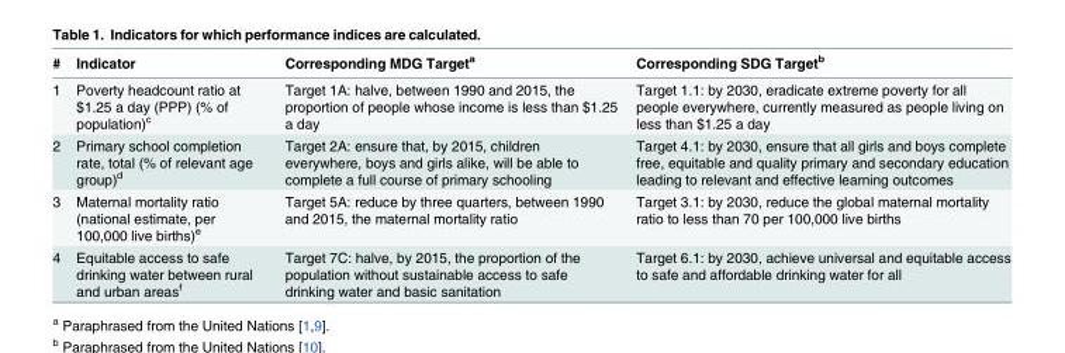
<table><thead><tr><td>#</td><td>Indicator</td><td>Corresponding MDG Target<sup>a</sup></td><td>Corresponding SDG Target<sup>b</sup></td></tr></thead><tbody><tr><td>1</td><td>Poverty headcount ratio at $1.25 a day (PPP) (% of population)<sup>c</sup></td><td>Target 1A: halve, between 1990 and 2015, the proportion of people whose income is less than $1.25 a day</td><td>Target 1.1: by 2030, eradicate extreme poverty for all people everywhere, currently measured as people living on less than $1.25 a day</td></tr><tr><td>2</td><td>Primary school completion rate, total (% of relevant age group)<sup>d</sup></td><td>Target 2A: ensure that, by 2015, children everywhere, boys and girls alike, will be able to complete a full course of primary schooling</td><td>Target 4.1: by 2030, ensure that all girls and boys complete free, equitable and quality primary and secondary education leading to relevant and effective learning outcomes</td></tr><tr><td>3</td><td>Maternal mortality ratio (national estimate, per 100,000 live births)<sup>e</sup></td><td>Target 5A: reduce by three quarters, between 1990 and 2015, the maternal mortality ratio</td><td>Target 3.1: by 2030, reduce the global maternal mortality ratio to less than 70 per 100,000 live births</td></tr><tr><td>4</td><td>Equitable access to safe drinking water between rural and urban areas<sup>f</sup></td><td>Target 7C: halve, by 2015, the proportion of the population without sustainable access to safe drinking water and basic sanitation</td><td>Target 6.1: by 2030, achieve universal and equitable access to safe and affordable drinking water for all</td></tr></tbody></table>